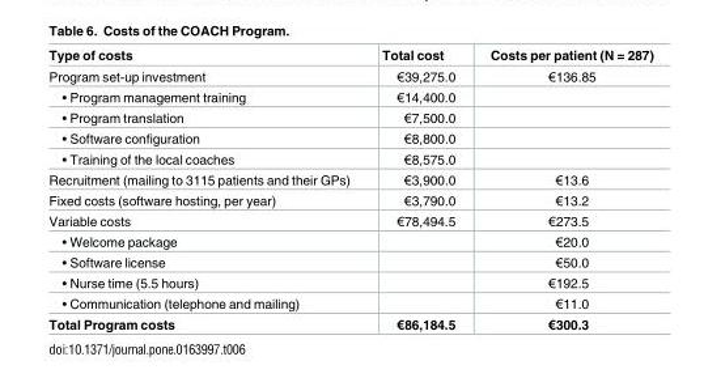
<table><thead><tr><td>Type of costs</td><td>Total cost</td><td>Costs per patient (N = 287)</td></tr></thead><tbody><tr><td>Program set-up investment</td><td>€39,275.0</td><td>€136.85</td></tr><tr><td>• Program management training</td><td>€14,400.0</td><td></td></tr><tr><td>• Program translation</td><td>€7,500.0</td><td></td></tr><tr><td>• Software configuration</td><td>€8,800.0</td><td></td></tr><tr><td>• Training of the local coaches</td><td>€8,575.0</td><td></td></tr><tr><td>Recruitment (mailing to 3115 patients and their GPs)</td><td>€3,900.0</td><td>€13.6</td></tr><tr><td>Fixed costs (software hosting, per year)</td><td>€3,790.0</td><td>€13.2</td></tr><tr><td>Variable costs</td><td>€78,494.5</td><td>€273.5</td></tr><tr><td>• Welcome package</td><td></td><td>€20.0</td></tr><tr><td>• Software license</td><td></td><td>€50.0</td></tr><tr><td>• Nurse time (5.5 hours)</td><td></td><td>€192.5</td></tr><tr><td>• Communication (telephone and mailing)</td><td></td><td>€11.0</td></tr><tr><td>Total Program costs</td><td>€86,184.5</td><td>€300.3</td></tr></tbody></table>